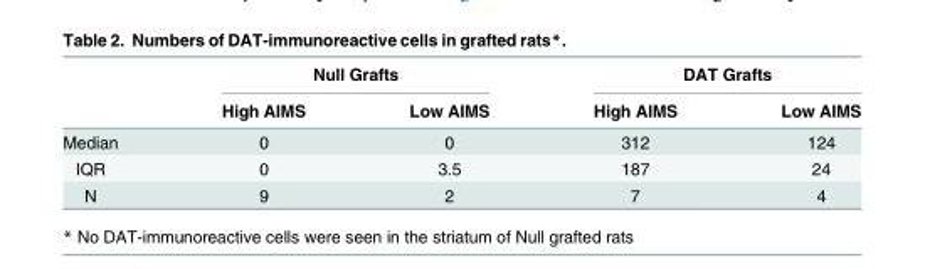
<table><thead><tr><td rowspan="2"></td><td colspan="2">Null Grafts</td><td colspan="2">DAT Grafts</td></tr><tr><td>High AIMS</td><td>Low AIMS</td><td>High AIMS</td><td>Low AIMS</td></tr></thead><tbody><tr><td>Median</td><td>0</td><td>0</td><td>312</td><td>124</td></tr><tr><td>IQR</td><td>0</td><td>3.5</td><td>187</td><td>24</td></tr><tr><td>N</td><td>9</td><td>2</td><td>7</td><td>4</td></tr></tbody></table>